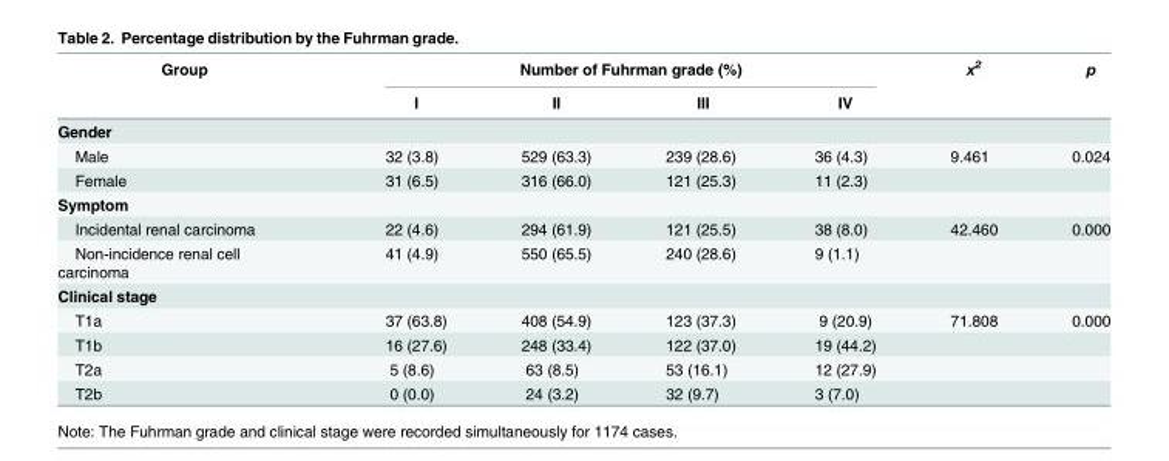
<table><thead><tr><td rowspan="2">Group</td><td colspan="4">Number of Fuhrman grade (%)</td><td rowspan="2">x<sup>2</sup></td><td rowspan="2">p</td></tr><tr><td>I</td><td>II</td><td>III</td><td>IV</td></tr></thead><tbody><tr><td colspan="7">Gender</td></tr><tr><td>Male</td><td>32 (3.8)</td><td>529 (63.3)</td><td>239 (28.6)</td><td>36 (4.3)</td><td>9.461</td><td>0.024</td></tr><tr><td>Female</td><td>31 (6.5)</td><td>316 (66.0)</td><td>121 (25.3)</td><td>11 (2.3)</td><td></td><td></td></tr><tr><td colspan="7">Symptom</td></tr><tr><td>Incidental renal carcinoma</td><td>22 (4.6)</td><td>294 (61.9)</td><td>121 (25.5)</td><td>38 (8.0)</td><td>42.460</td><td>0.000</td></tr><tr><td>Non-incidence renal cell carcinoma</td><td>41 (4.9)</td><td>550 (65.5)</td><td>240 (28.6)</td><td>9 (1.1)</td><td></td><td></td></tr><tr><td colspan="7">Clinical stage</td></tr><tr><td>T1a</td><td>37 (63.8)</td><td>408 (54.9)</td><td>123 (37.3)</td><td>9 (20.9)</td><td>71.808</td><td>0.000</td></tr><tr><td>T1b</td><td>16 (27.6)</td><td>248 (33.4)</td><td>122 (37.0)</td><td>19 (44.2)</td><td></td><td></td></tr><tr><td>T2a</td><td>5 (8.6)</td><td>63 (8.5)</td><td>53 (16.1)</td><td>12 (27.9)</td><td></td><td></td></tr><tr><td>T2b</td><td>0 (0.0)</td><td>24 (3.2)</td><td>32 (9.7)</td><td>3 (7.0)</td><td></td><td></td></tr></tbody></table>